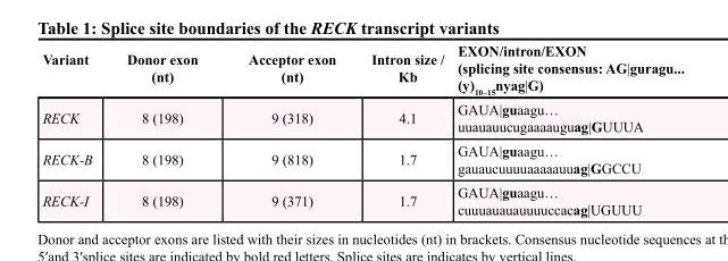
<table><thead><tr><td>Variant</td><td>Donor exon (nt)</td><td>Acceptor exon (nt)</td><td>Intron size / Kb</td><td>EXON/intron/EXON (splicing site consensus: AG|guragu... (y)<sub>10–15</sub>nyag|G)</td></tr></thead><tbody><tr><td>RECK</td><td>8 (198)</td><td>9 (318)</td><td>4.1</td><td>GAUA|guaagu… uuauauucugaaaauguag|GUUUA</td></tr><tr><td>RECK-B</td><td>8 (198)</td><td>9 (818)</td><td>1.7</td><td>GAUA|guaagu… gauaucuuuuaaaaauuag|GGCCU</td></tr><tr><td>RECK-I</td><td>8 (198)</td><td>9 (371)</td><td>1.7</td><td>GAUA|guaagu… cuuuauauauuuuccacag|UGUUU</td></tr></tbody></table>